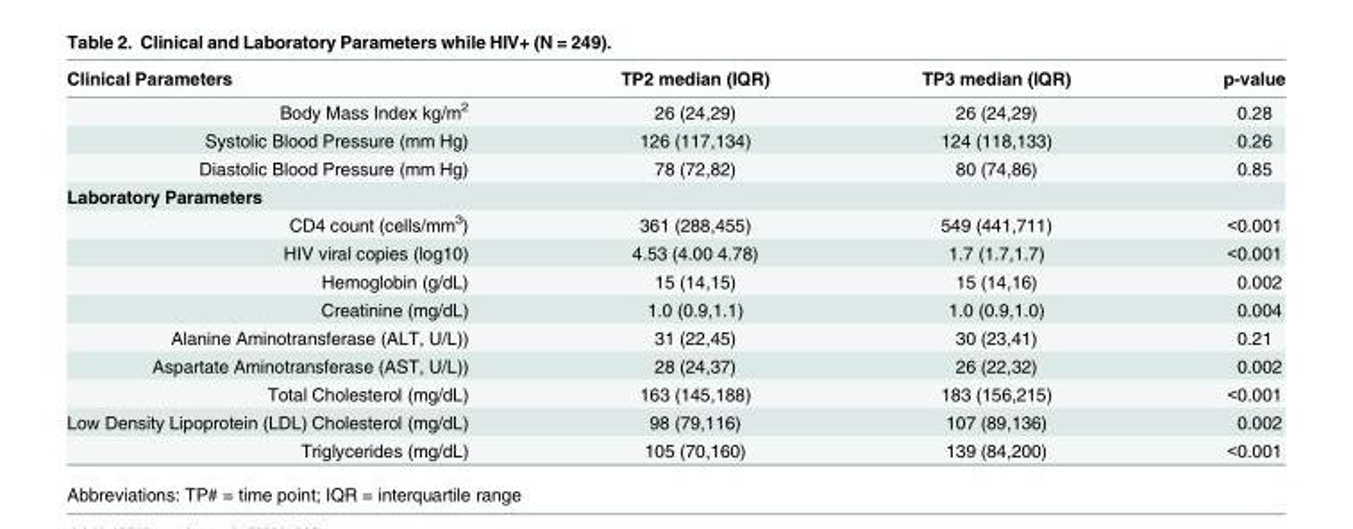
<table><thead><tr><td>Clinical Parameters</td><td>TP2 median (IQR)</td><td>TP3 median (IQR)</td><td>p-value</td></tr></thead><tbody><tr><td>Body Mass Index kg/m<sup>2</sup></td><td>26 (24,29)</td><td>26 (24,29)</td><td>0.28</td></tr><tr><td>Systolic Blood Pressure (mm Hg)</td><td>126 (117,134)</td><td>124 (118,133)</td><td>0.26</td></tr><tr><td>Diastolic Blood Pressure (mm Hg)</td><td>78 (72,82)</td><td>80 (74,86)</td><td>0.85</td></tr><tr><td colspan="4">Laboratory Parameters</td></tr><tr><td>CD4 count (cells/mm<sup>3</sup>)</td><td>361 (288,455)</td><td>549 (441,711)</td><td>&lt;0.001</td></tr><tr><td>HIV viral copies (log10)</td><td>4.53 (4.00 4.78)</td><td>1.7 (1.7,1.7)</td><td>&lt;0.001</td></tr><tr><td>Hemoglobin (g/dL)</td><td>15 (14,15)</td><td>15 (14,16)</td><td>0.002</td></tr><tr><td>Creatinine (mg/dL)</td><td>1.0 (0.9,1.1)</td><td>1.0 (0.9,1.0)</td><td>0.004</td></tr><tr><td>Alanine Aminotransferase (ALT, U/L))</td><td>31 (22,45)</td><td>30 (23,41)</td><td>0.21</td></tr><tr><td>Aspartate Aminotransferase (AST, U/L))</td><td>28 (24,37)</td><td>26 (22,32)</td><td>0.002</td></tr><tr><td>Total Cholesterol (mg/dL)</td><td>163 (145,188)</td><td>183 (156,215)</td><td>&lt;0.001</td></tr><tr><td>Low Density Lipoprotein (LDL) Cholesterol (mg/dL)</td><td>98 (79,116)</td><td>107 (89,136)</td><td>0.002</td></tr><tr><td>Triglycerides (mg/dL)</td><td>105 (70,160)</td><td>139 (84,200)</td><td>&lt;0.001</td></tr></tbody></table>